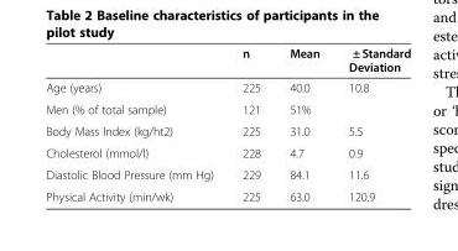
<table><thead><tr><td></td><td>n</td><td>Mean</td><td>± Standard Deviation</td></tr></thead><tbody><tr><td>Age (years)</td><td>225</td><td>40.0</td><td>10.8</td></tr><tr><td>Men (% of total sample)</td><td>121</td><td>51%</td><td></td></tr><tr><td>Body Mass Index (kg/ht2)</td><td>225</td><td>31.0</td><td>5.5</td></tr><tr><td>Cholesterol (mmol/l)</td><td>228</td><td>4.7</td><td>0.9</td></tr><tr><td>Diastolic Blood Pressure (mm Hg)</td><td>229</td><td>84.1</td><td>11.6</td></tr><tr><td>Physical Activity (min/wk)</td><td>225</td><td>63.0</td><td>120.9</td></tr></tbody></table>